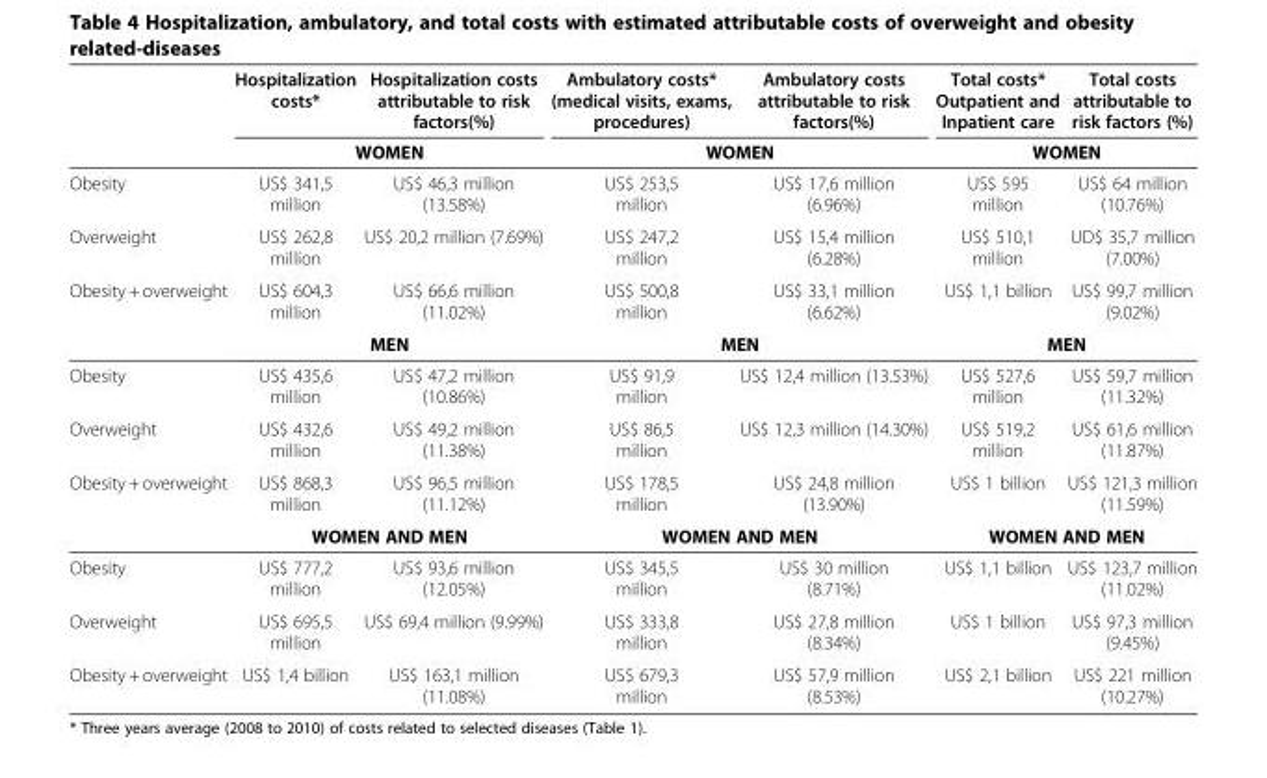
<table><thead><tr><td></td><td>Hospitalization costs*</td><td>Hospitalization costs attributable to risk factors(%)</td><td>Ambulatory costs* (medical visits, exams, procedures)</td><td>Ambulatory costs attributable to risk factors(%)</td><td>Total costs* Outpatient and Inpatient care</td><td>Total costs attributable to risk factors (%)</td></tr></thead><tbody><tr><td></td><td colspan="2">WOMEN</td><td colspan="2">WOMEN</td><td colspan="2">WOMEN</td></tr><tr><td>Obesity</td><td>US$ 341,5 million</td><td>US$ 46,3 million (13.58%)</td><td>US$ 253,5 million</td><td>US$ 17,6 million (6.96%)</td><td>US$ 595 million</td><td>US$ 64 million (10.76%)</td></tr><tr><td>Overweight</td><td>US$ 262,8 million</td><td>US$ 20,2 million (7.69%)</td><td>US$ 247,2 million</td><td>US$ 15,4 million (6.28%)</td><td>US$ 510,1 million</td><td>UD$ 35,7 million (7.00%)</td></tr><tr><td rowspan="2">Obesity + overweight</td><td>US$ 604,3 million</td><td>US$ 66,6 million (11.02%)</td><td>US$ 500,8 million</td><td>US$ 33,1 million (6.62%)</td><td>US$ 1,1 billion</td><td>US$ 99,7 million (9.02%)</td></tr><tr><td colspan="2">MEN</td><td colspan="2">MEN</td><td colspan="2">MEN</td></tr><tr><td>Obesity</td><td>US$ 435,6 million</td><td>US$ 47,2 million (10.86%)</td><td>US$ 91,9 million</td><td>US$ 12,4 million (13.53%)</td><td>US$ 527,6 million</td><td>US$ 59,7 million (11.32%)</td></tr><tr><td>Overweight</td><td>US$ 432,6 million</td><td>US$ 49,2 million (11.38%)</td><td>US$ 86,5 million</td><td>US$ 12,3 million (14.30%)</td><td>US$ 519,2 million</td><td>US$ 61,6 million (11.87%)</td></tr><tr><td rowspan="2">Obesity + overweight</td><td>US$ 868,3 million</td><td>US$ 96,5 million (11.12%)</td><td>US$ 178,5 million</td><td>US$ 24,8 million (13.90%)</td><td>US$ 1 billion</td><td>US$ 121,3 million (11.59%)</td></tr><tr><td colspan="2">WOMEN AND MEN</td><td colspan="2">WOMEN AND MEN</td><td colspan="2">WOMEN AND MEN</td></tr><tr><td>Obesity</td><td>US$ 777,2 million</td><td>US$ 93,6 million (12.05%)</td><td>US$ 345,5 million</td><td>US$ 30 million (8.71%)</td><td>US$ 1,1 billion</td><td>US$ 123,7 million (11.02%)</td></tr><tr><td>Overweight</td><td>US$ 695,5 million</td><td>US$ 69,4 million (9.99%)</td><td>US$ 333,8 million</td><td>US$ 27,8 million (8.34%)</td><td>US$ 1 billion</td><td>US$ 97,3 million (9.45%)</td></tr><tr><td>Obesity + overweight</td><td>US$ 1,4 billion</td><td>US$ 163,1 million (11.08%)</td><td>US$ 679,3 million</td><td>US$ 57,9 million (8.53%)</td><td>US$ 2,1 billion</td><td>US$ 221 million (10.27%)</td></tr></tbody></table>